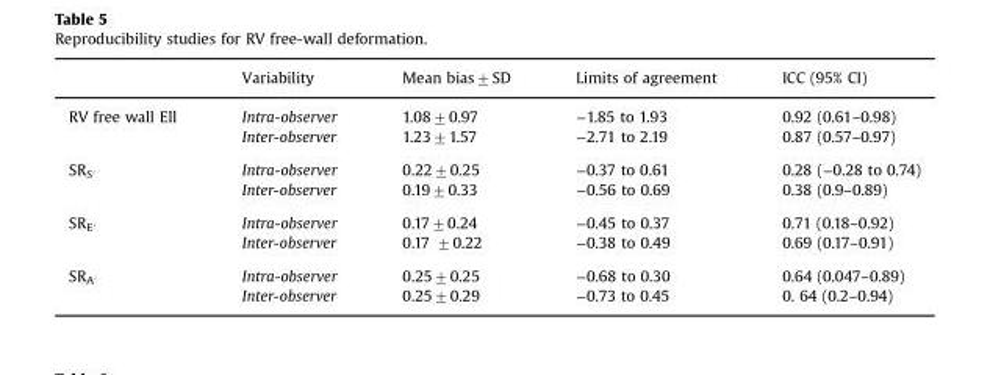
<table><thead><tr><td></td><td>Variability</td><td>Mean bias±SD</td><td>Limits of agreement</td><td>ICC (95% CI)</td></tr></thead><tbody><tr><td rowspan="2">RV free wall Ell</td><td>Intra-observer</td><td>1.08±0.97</td><td>−1.85 to 1.93</td><td>0.92 (0.61–0.98)</td></tr><tr><td>Inter-observer</td><td>1.23±1.57</td><td>−2.71 to 2.19</td><td>0.87 (0.57–0.97)</td></tr><tr><td rowspan="2">SR<sub>S′</sub></td><td>Intra-observer</td><td>0.22±0.25</td><td>−0.37 to 0.61</td><td>0.28 (−0.28 to 0.74)</td></tr><tr><td>Inter-observer</td><td>0.19±0.33</td><td>−0.56 to 0.69</td><td>0.38 (0.9–0.89)</td></tr><tr><td rowspan="2">SR<sub>E′</sub></td><td>Intra-observer</td><td>0.17±0.24</td><td>−0.45 to 0.37</td><td>0.71 (0.18–0.92)</td></tr><tr><td>Inter-observer</td><td>0.17 ±0.22</td><td>−0.38 to 0.49</td><td>0.69 (0.17–0.91)</td></tr><tr><td rowspan="2">SR<sub>A′</sub></td><td>Intra-observer</td><td>0.25±0.25</td><td>−0.68 to 0.30</td><td>0.64 (0.047–0.89)</td></tr><tr><td>Inter-observer</td><td>0.25±0.29</td><td>−0.73 to 0.45</td><td>0. 64 (0.2–0.94)</td></tr></tbody></table>